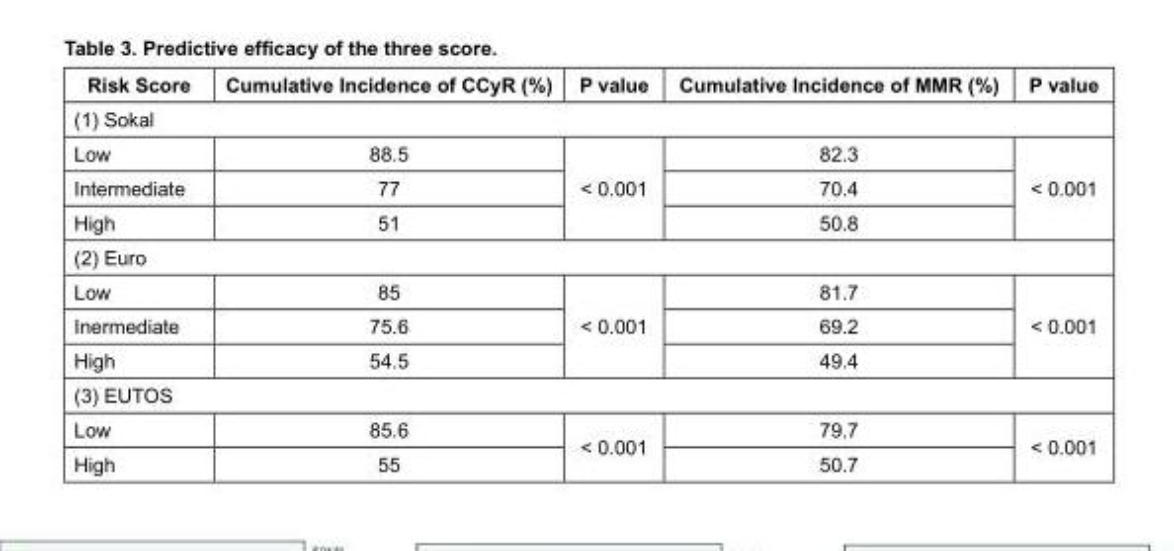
<table><thead><tr><td>Risk Score</td><td>Cumulative Incidence of CCyR (%)</td><td>P value</td><td>Cumulative Incidence of MMR (%)</td><td>P value</td></tr></thead><tbody><tr><td colspan="5">(1) Sokal</td></tr><tr><td>Low</td><td>88.5</td><td rowspan="3">&lt; 0.001</td><td>82.3</td><td rowspan="3">&lt; 0.001</td></tr><tr><td>Intermediate</td><td>77</td><td>70.4</td></tr><tr><td>High</td><td>51</td><td>50.8</td></tr><tr><td colspan="5">(2) Euro</td></tr><tr><td>Low</td><td>85</td><td rowspan="3">&lt; 0.001</td><td>81.7</td><td rowspan="3">&lt; 0.001</td></tr><tr><td>Inermediate</td><td>75.6</td><td>69.2</td></tr><tr><td>High</td><td>54.5</td><td>49.4</td></tr><tr><td colspan="5">(3) EUTOS</td></tr><tr><td>Low</td><td>85.6</td><td rowspan="2">&lt; 0.001</td><td>79.7</td><td rowspan="2">&lt; 0.001</td></tr><tr><td>High</td><td>55</td><td>50.7</td></tr></tbody></table>